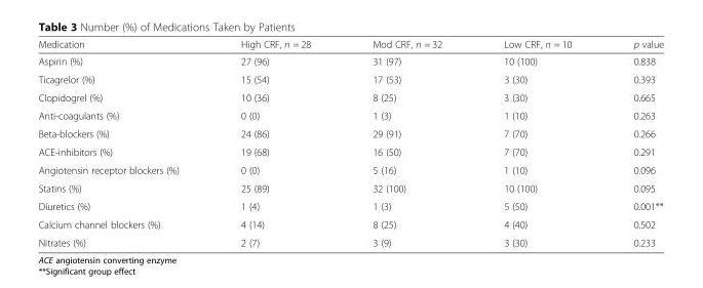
<table><thead><tr><td>Medication</td><td>High CRF, n = 28</td><td>Mod CRF, n = 32</td><td>Low CRF, n = 10</td><td>p value</td></tr></thead><tbody><tr><td>Aspirin (%)</td><td>27 (96)</td><td>31 (97)</td><td>10 (100)</td><td>0.838</td></tr><tr><td>Ticagrelor (%)</td><td>15 (54)</td><td>17 (53)</td><td>3 (30)</td><td>0.393</td></tr><tr><td>Clopidogrel (%)</td><td>10 (36)</td><td>8 (25)</td><td>3 (30)</td><td>0.665</td></tr><tr><td>Anti-coagulants (%)</td><td>0 (0)</td><td>1 (3)</td><td>1 (10)</td><td>0.263</td></tr><tr><td>Beta-blockers (%)</td><td>24 (86)</td><td>29 (91)</td><td>7 (70)</td><td>0.266</td></tr><tr><td>ACE-inhibitors (%)</td><td>19 (68)</td><td>16 (50)</td><td>7 (70)</td><td>0.291</td></tr><tr><td>Angiotensin receptor blockers (%)</td><td>0 (0)</td><td>5 (16)</td><td>1 (10)</td><td>0.096</td></tr><tr><td>Statins (%)</td><td>25 (89)</td><td>32 (100)</td><td>10 (100)</td><td>0.095</td></tr><tr><td>Diuretics (%)</td><td>1 (4)</td><td>1 (3)</td><td>5 (50)</td><td>0.001**</td></tr><tr><td>Calcium channel blockers (%)</td><td>4 (14)</td><td>8 (25)</td><td>4 (40)</td><td>0.502</td></tr><tr><td>Nitrates (%)</td><td>2 (7)</td><td>3 (9)</td><td>3 (30)</td><td>0.233</td></tr></tbody></table>